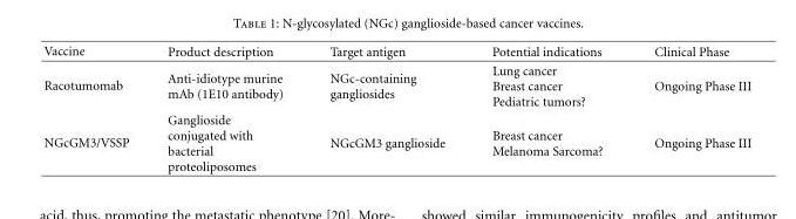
<table><thead><tr><td>Vaccine</td><td>Product description</td><td>Target antigen</td><td>Potential indications</td><td>Clinical Phase</td></tr></thead><tbody><tr><td>Racotumomab</td><td>Anti-idiotype murine mAb (1E10 antibody)</td><td>NGc-containing gangliosides</td><td>Lung cancer Breast cancer Pediatric tumors?</td><td>Ongoing Phase III</td></tr><tr><td>NGcGM3/VSSP</td><td>Ganglioside conjugated with bacterial proteoliposomes</td><td>NGcGM3 ganglioside</td><td>Breast cancer Melanoma Sarcoma?</td><td>Ongoing Phase III</td></tr></tbody></table>